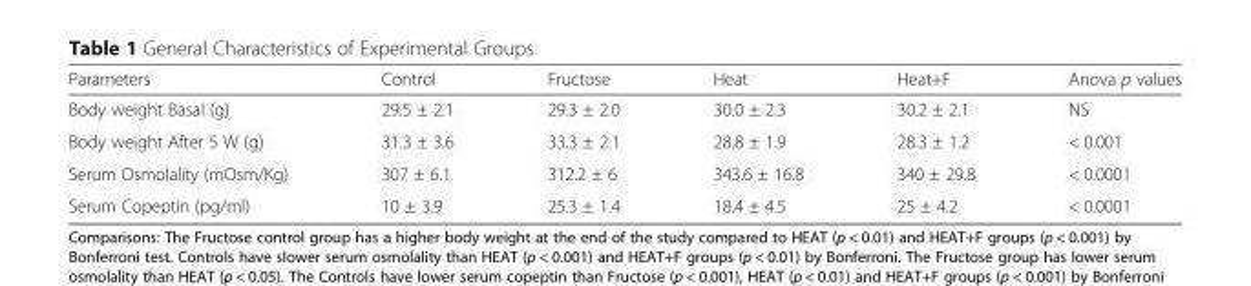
<table><thead><tr><td>Parameters</td><td>Control</td><td>Fructose</td><td>Heat</td><td>Heat+F</td><td>Anova p values</td></tr></thead><tbody><tr><td>Body weight Basal (g)</td><td>29.5 ± 2.1</td><td>29.3 ± 2.0</td><td>30.0 ± 2.3</td><td>30.2 ± 2.1</td><td>NS</td></tr><tr><td>Body weight After 5 W (g)</td><td>31.3 ± 3.6</td><td>33.3 ± 2.1</td><td>28.8 ± 1.9</td><td>28.3 ± 1.2</td><td>&lt; 0.001</td></tr><tr><td>Serum Osmolality (mOsm/Kg)</td><td>307 ± 6.1</td><td>312.2 ± 6</td><td>343.6 ± 16.8</td><td>340 ± 29.8</td><td>&lt; 0.0001</td></tr><tr><td>Serum Copeptin (pg/ml)</td><td>10 ± 3.9</td><td>25.3 ± 1.4</td><td>18.4 ± 4.5</td><td>25 ± 4.2</td><td>&lt; 0.0001</td></tr></tbody></table>